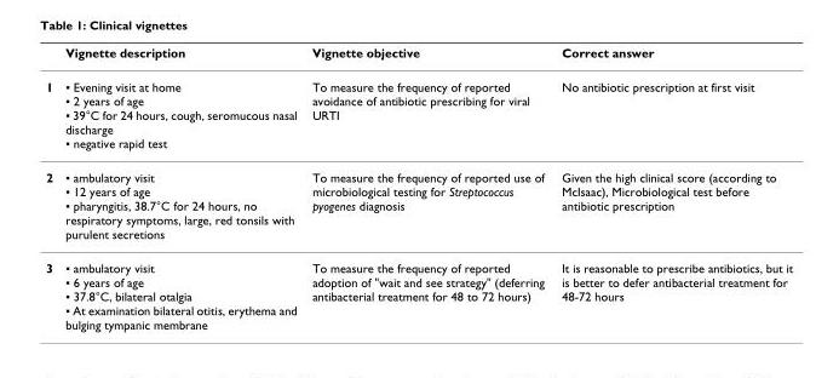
<table><thead><tr><td></td><td>Vignette description</td><td>Vignette objective</td><td>Correct answer</td></tr></thead><tbody><tr><td>1</td><td>▪ Evening visit at home ▪ 2 years of age ▪ 39°C for 24 hours, cough, seromucous nasal discharge ▪ negative rapid test</td><td>To measure the frequency of reported avoidance of antibiotic prescribing for viral URTI</td><td>No antibiotic prescription at first visit</td></tr><tr><td>2</td><td>▪ ambulatory visit ▪ 12 years of age ▪ pharyngitis, 38.7°C for 24 hours, no respiratory symptoms, large, red tonsils with purulent secretions</td><td>To measure the frequency of reported use of microbiological testing for Streptococcus pyogenes diagnosis</td><td>Given the high clinical score (according to McIsaac), Microbiological test before antibiotic prescription</td></tr><tr><td>3</td><td>▪ ambulatory visit ▪ 6 years of age ▪ 37.8°C, bilateral otalgia ▪ At examination bilateral otitis, erythema and bulging tympanic membrane</td><td>To measure the frequency of reported adoption of &quot;wait and see strategy&quot; (deferring antibacterial treatment for 48 to 72 hours)</td><td>It is reasonable to prescribe antibiotics, but it is better to defer antibacterial treatment for 48-72 hours</td></tr></tbody></table>